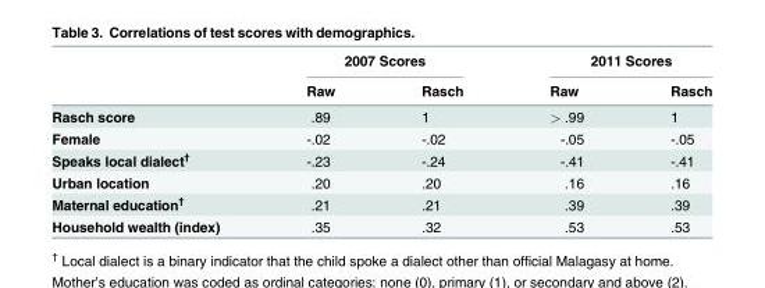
<table><thead><tr><td rowspan="2"></td><td colspan="2">2007 Scores</td><td colspan="2">2011 Scores</td></tr><tr><td>Raw</td><td>Rasch</td><td>Raw</td><td>Rasch</td></tr></thead><tbody><tr><td>Rasch score</td><td>.89</td><td>1</td><td>&gt; .99</td><td>1</td></tr><tr><td>Female</td><td>-.02</td><td>-.02</td><td>-.05</td><td>-.05</td></tr><tr><td>Speaks local dialect<sup>†</sup></td><td>-.23</td><td>-.24</td><td>-.41</td><td>-.41</td></tr><tr><td>Urban location</td><td>.20</td><td>.20</td><td>.16</td><td>.16</td></tr><tr><td>Maternal education<sup>†</sup></td><td>.21</td><td>.21</td><td>.39</td><td>.39</td></tr><tr><td>Household wealth (index)</td><td>.35</td><td>.32</td><td>.53</td><td>.53</td></tr></tbody></table>